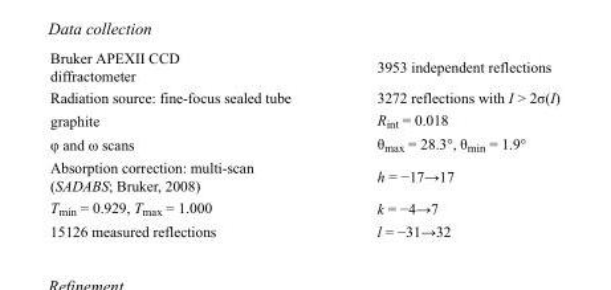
<table><tbody><tr><td>Bruker APEXII CCD diffractometer</td><td>3953 independent reflections</td></tr><tr><td>Radiation source: fine-focus sealed tube</td><td>3272 reflections with I &gt; 2σ(I)</td></tr><tr><td>graphite</td><td>R<sub>int</sub> = 0.018</td></tr><tr><td>φ and ω scans</td><td>θ<sub>max</sub> = 28.3°, θ<sub>min</sub> = 1.9°</td></tr><tr><td>Absorption correction: multi-scan (SADABS; Bruker, 2008)</td><td>h = −17→17</td></tr><tr><td>T<sub>min</sub> = 0.929, T<sub>max</sub> = 1.000</td><td>k = −4→7</td></tr><tr><td>15126 measured reflections</td><td>l = −31→32</td></tr></tbody></table>